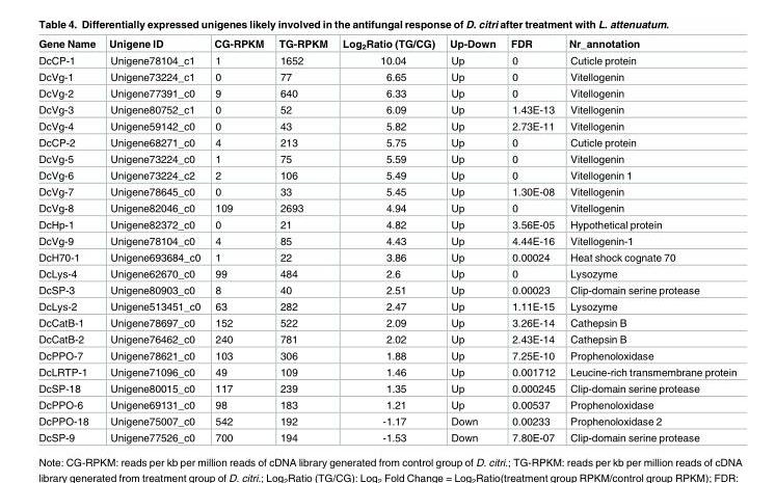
<table><thead><tr><td>Gene Name</td><td>Unigene ID</td><td>CG-RPKM</td><td>TG-RPKM</td><td>Log<sub>2</sub>Ratio (TG/CG)</td><td>Up-Down</td><td>FDR</td><td>Nr_annotation</td></tr></thead><tbody><tr><td>DcCP-1</td><td>Unigene78104_c1</td><td>1</td><td>1652</td><td>10.04</td><td>Up</td><td>0</td><td>Cuticle protein</td></tr><tr><td>DcVg-1</td><td>Unigene73224_c1</td><td>0</td><td>77</td><td>6.65</td><td>Up</td><td>0</td><td>Vitellogenin</td></tr><tr><td>DcVg-2</td><td>Unigene77391_c0</td><td>9</td><td>640</td><td>6.33</td><td>Up</td><td>0</td><td>Vitellogenin</td></tr><tr><td>DcVg-3</td><td>Unigene80752_c1</td><td>0</td><td>52</td><td>6.09</td><td>Up</td><td>1.43E-13</td><td>Vitellogenin</td></tr><tr><td>DcVg-4</td><td>Unigene59142_c0</td><td>0</td><td>43</td><td>5.82</td><td>Up</td><td>2.73E-11</td><td>Vitellogenin</td></tr><tr><td>DcCP-2</td><td>Unigene68271_c0</td><td>4</td><td>213</td><td>5.75</td><td>Up</td><td>0</td><td>Cuticle protein</td></tr><tr><td>DcVg-5</td><td>Unigene73224_c0</td><td>1</td><td>75</td><td>5.59</td><td>Up</td><td>0</td><td>Vitellogenin</td></tr><tr><td>DcVg-6</td><td>Unigene73224_c2</td><td>2</td><td>106</td><td>5.49</td><td>Up</td><td>0</td><td>Vitellogenin 1</td></tr><tr><td>DcVg-7</td><td>Unigene78645_c0</td><td>0</td><td>33</td><td>5.45</td><td>Up</td><td>1.30E-08</td><td>Vitellogenin</td></tr><tr><td>DcVg-8</td><td>Unigene82046_c0</td><td>109</td><td>2693</td><td>4.94</td><td>Up</td><td>0</td><td>Vitellogenin</td></tr><tr><td>DcHp-1</td><td>Unigene82372_c0</td><td>0</td><td>21</td><td>4.82</td><td>Up</td><td>3.56E-05</td><td>Hypothetical protein</td></tr><tr><td>DcVg-9</td><td>Unigene78104_c0</td><td>4</td><td>85</td><td>4.43</td><td>Up</td><td>4.44E-16</td><td>Vitellogenin-1</td></tr><tr><td>DcH70-1</td><td>Unigene693684_c0</td><td>1</td><td>22</td><td>3.86</td><td>Up</td><td>0.00024</td><td>Heat shock cognate 70</td></tr><tr><td>DcLys-4</td><td>Unigene62670_c0</td><td>99</td><td>484</td><td>2.6</td><td>Up</td><td>0</td><td>Lysozyme</td></tr><tr><td>DcSP-3</td><td>Unigene80903_c0</td><td>8</td><td>40</td><td>2.51</td><td>Up</td><td>0.00023</td><td>Clip-domain serine protease</td></tr><tr><td>DcLys-2</td><td>Unigene513451_c0</td><td>63</td><td>282</td><td>2.47</td><td>Up</td><td>1.11E-15</td><td>Lysozyme</td></tr><tr><td>DcCatB-1</td><td>Unigene78697_c0</td><td>152</td><td>522</td><td>2.09</td><td>Up</td><td>3.26E-14</td><td>Cathepsin B</td></tr><tr><td>DcCatB-2</td><td>Unigene76462_c0</td><td>240</td><td>781</td><td>2.02</td><td>Up</td><td>2.43E-14</td><td>Cathepsin B</td></tr><tr><td>DcPPO-7</td><td>Unigene78621_c0</td><td>103</td><td>306</td><td>1.88</td><td>Up</td><td>7.25E-10</td><td>Prophenoloxidase</td></tr><tr><td>DcLRTP-1</td><td>Unigene71096_c0</td><td>49</td><td>109</td><td>1.46</td><td>Up</td><td>0.001712</td><td>Leucine-rich transmembrane protein</td></tr><tr><td>DcSP-18</td><td>Unigene80015_c0</td><td>117</td><td>239</td><td>1.35</td><td>Up</td><td>0.000245</td><td>Clip-domain serine protease</td></tr><tr><td>DcPPO-6</td><td>Unigene69131_c0</td><td>98</td><td>183</td><td>1.21</td><td>Up</td><td>0.00537</td><td>Prophenoloxidase</td></tr><tr><td>DcPPO-18</td><td>Unigene75007_c0</td><td>542</td><td>192</td><td>-1.17</td><td>Down</td><td>0.00233</td><td>Prophenoloxidase 2</td></tr><tr><td>DcSP-9</td><td>Unigene77526_c0</td><td>700</td><td>194</td><td>-1.53</td><td>Down</td><td>7.80E-07</td><td>Clip-domain serine protease</td></tr></tbody></table>